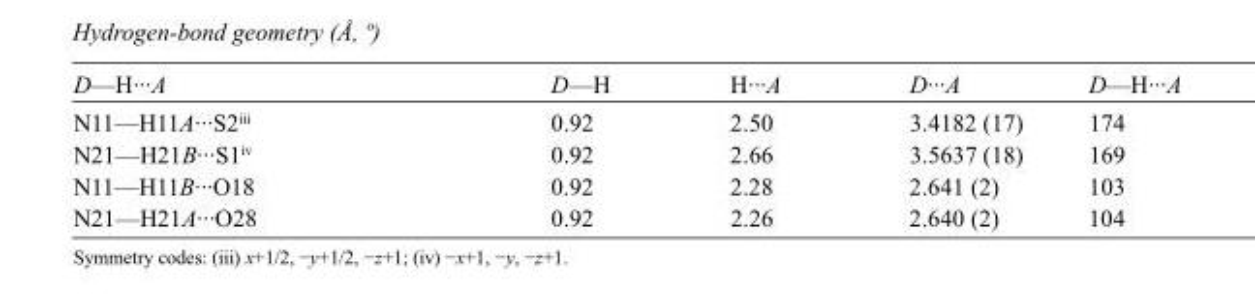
<table><tbody><tr><td>D—H···A</td><td>D—H</td><td>H···A</td><td>D···A</td><td>D—H···A</td></tr><tr><td>N11—H11A···S2<sup>iii</sup></td><td>0.92</td><td>2.50</td><td>3.4182 (17)</td><td>174</td></tr><tr><td>N21—H21B···S1<sup>iv</sup></td><td>0.92</td><td>2.66</td><td>3.5637 (18)</td><td>169</td></tr><tr><td>N11—H11B···O18</td><td>0.92</td><td>2.28</td><td>2.641 (2)</td><td>103</td></tr><tr><td>N21—H21A···O28</td><td>0.92</td><td>2.26</td><td>2.640 (2)</td><td>104</td></tr></tbody></table>